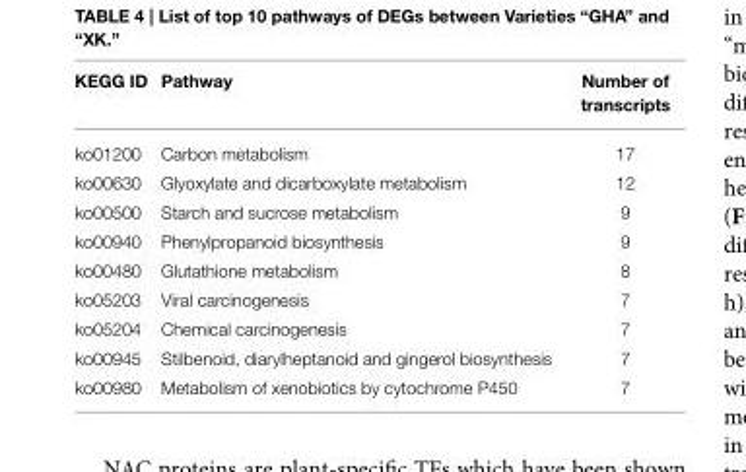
<table><thead><tr><td>KEGG ID</td><td>Pathway</td><td>Number of transcripts</td></tr></thead><tbody><tr><td>ko01200</td><td>Carbon metabolism</td><td>17</td></tr><tr><td>ko00630</td><td>Glyoxylate and dicarboxylate metabolism</td><td>12</td></tr><tr><td>ko00500</td><td>Starch and sucrose metabolism</td><td>9</td></tr><tr><td>ko00940</td><td>Phenylpropanoid biosynthesis</td><td>9</td></tr><tr><td>ko00480</td><td>Glutathione metabolism</td><td>8</td></tr><tr><td>ko05203</td><td>Viral carcinogenesis</td><td>7</td></tr><tr><td>ko05204</td><td>Chemical carcinogenesis</td><td>7</td></tr><tr><td>ko00945</td><td>Stilbenoid, diarylheptanoid and gingerol biosynthesis</td><td>7</td></tr><tr><td>ko00980</td><td>Metabolism of xenobiotics by cytochrome P450</td><td>7</td></tr></tbody></table>